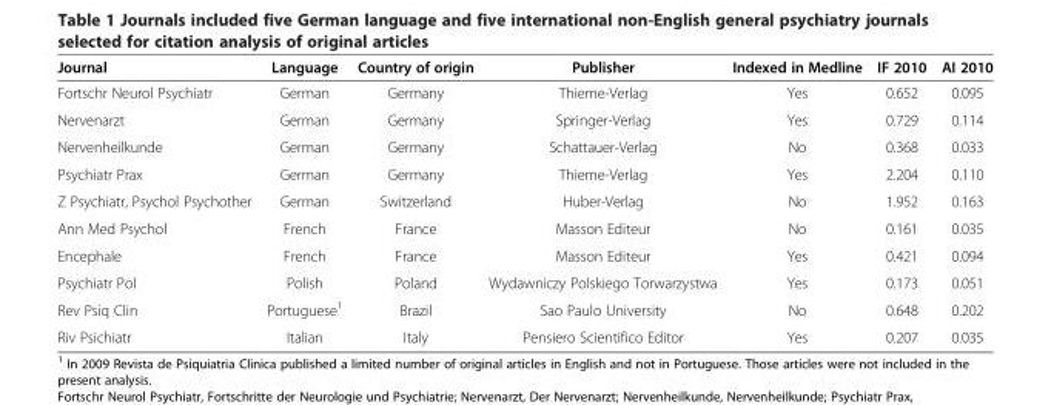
<table><thead><tr><td>Journal</td><td>Language</td><td>Country of origin</td><td>Publisher</td><td>Indexed in Medline</td><td>IF 2010</td><td>AI 2010</td></tr></thead><tbody><tr><td>Fortschr Neurol Psychiatr</td><td>German</td><td>Germany</td><td>Thieme-Verlag</td><td>Yes</td><td>0.652</td><td>0.095</td></tr><tr><td>Nervenarzt</td><td>German</td><td>Germany</td><td>Springer-Verlag</td><td>Yes</td><td>0.729</td><td>0.114</td></tr><tr><td>Nervenheilkunde</td><td>German</td><td>Germany</td><td>Schattauer-Verlag</td><td>No</td><td>0.368</td><td>0.033</td></tr><tr><td>Psychiatr Prax</td><td>German</td><td>Germany</td><td>Thieme-Verlag</td><td>Yes</td><td>2.204</td><td>0.110</td></tr><tr><td>Z Psychiatr, Psychol Psychother</td><td>German</td><td>Switzerland</td><td>Huber-Verlag</td><td>No</td><td>1.952</td><td>0.163</td></tr><tr><td>Ann Med Psychol</td><td>French</td><td>France</td><td>Masson Editeur</td><td>No</td><td>0.161</td><td>0.035</td></tr><tr><td>Encephale</td><td>French</td><td>France</td><td>Masson Editeur</td><td>Yes</td><td>0.421</td><td>0.094</td></tr><tr><td>Psychiatr Pol</td><td>Polish</td><td>Poland</td><td>Wydawniczy Polskiego Torwarzystwa</td><td>Yes</td><td>0.173</td><td>0.051</td></tr><tr><td>Rev Psiq Clin</td><td>Portuguese<sup>1</sup></td><td>Brazil</td><td>Sao Paulo University</td><td>No</td><td>0.648</td><td>0.202</td></tr><tr><td>Riv Psichiatr</td><td>Italian</td><td>Italy</td><td>Pensiero Scientifico Editor</td><td>Yes</td><td>0.207</td><td>0.035</td></tr></tbody></table>